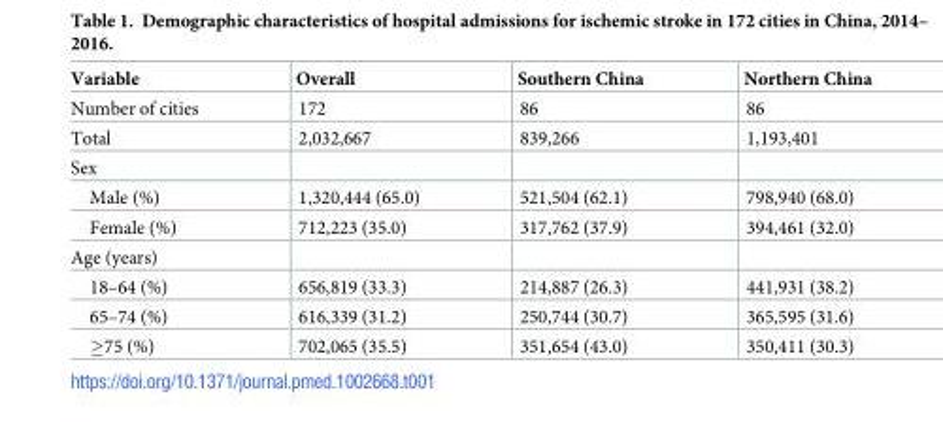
<table><thead><tr><td>Variable</td><td>Overall</td><td>Southern China</td><td>Northern China</td></tr></thead><tbody><tr><td>Number of cities</td><td>172</td><td>86</td><td>86</td></tr><tr><td>Total</td><td>2,032,667</td><td>839,266</td><td>1,193,401</td></tr><tr><td colspan="4">Sex</td></tr><tr><td>Male (%)</td><td>1,320,444 (65.0)</td><td>521,504 (62.1)</td><td>798,940 (68.0)</td></tr><tr><td>Female (%)</td><td>712,223 (35.0)</td><td>317,762 (37.9)</td><td>394,461 (32.0)</td></tr><tr><td colspan="4">Age (years)</td></tr><tr><td>18–64 (%)</td><td>656,819 (33.3)</td><td>214,887 (26.3)</td><td>441,931 (38.2)</td></tr><tr><td>65–74 (%)</td><td>616,339 (31.2)</td><td>250,744 (30.7)</td><td>365,595 (31.6)</td></tr><tr><td>≥75 (%)</td><td>702,065 (35.5)</td><td>351,654 (43.0)</td><td>350,411 (30.3)</td></tr></tbody></table>